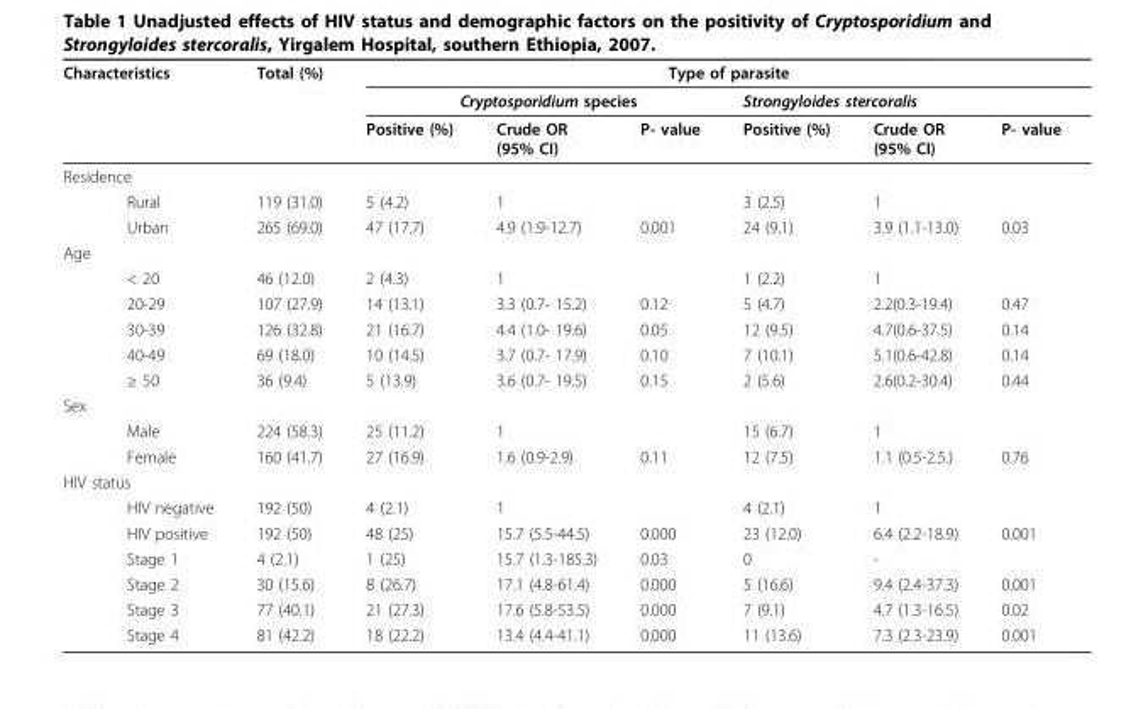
<table><thead><tr><td rowspan="3">Characteristics</td><td rowspan="3">Total (%)</td><td colspan="6">Type of parasite</td></tr><tr><td colspan="3">Cryptosporidium species</td><td colspan="3">Strongyloides stercoralis</td></tr><tr><td>Positive (%)</td><td>Crude OR (95% CI)</td><td>P- value</td><td>Positive (%)</td><td>Crude OR (95% CI)</td><td>P- value</td></tr></thead><tbody><tr><td colspan="8">Residence</td></tr><tr><td>Rural</td><td>119 (31.0)</td><td>5 (4.2)</td><td>1</td><td></td><td>3 (2.5)</td><td>1</td><td></td></tr><tr><td>Urban</td><td>265 (69.0)</td><td>47 (17.7)</td><td>4.9 (1.9-12.7)</td><td>0.001</td><td>24 (9.1)</td><td>3.9 (1.1-13.0)</td><td>0.03</td></tr><tr><td colspan="8">Age</td></tr><tr><td>&lt; 20</td><td>46 (12.0)</td><td>2 (4.3)</td><td>1</td><td></td><td>1 (2.2)</td><td>1</td><td></td></tr><tr><td>20-29</td><td>107 (27.9)</td><td>14 (13.1)</td><td>3.3 (0.7- 15.2)</td><td>0.12</td><td>5 (4.7)</td><td>2.2(0.3-19.4)</td><td>0.47</td></tr><tr><td>30-39</td><td>126 (32.8)</td><td>21 (16.7)</td><td>4.4 (1.0- 19.6)</td><td>0.05</td><td>12 (9.5)</td><td>4.7(0.6-37.5)</td><td>0.14</td></tr><tr><td>40-49</td><td>69 (18.0)</td><td>10 (14.5)</td><td>3.7 (0.7- 17.9)</td><td>0.10</td><td>7 (10.1)</td><td>5.1(0.6-42.8)</td><td>0.14</td></tr><tr><td>≥ 50</td><td>36 (9.4)</td><td>5 (13.9)</td><td>3.6 (0.7- 19.5)</td><td>0.15</td><td>2 (5.6)</td><td>2.6(0.2-30.4)</td><td>0.44</td></tr><tr><td colspan="8">Sex</td></tr><tr><td>Male</td><td>224 (58.3)</td><td>25 (11.2)</td><td>1</td><td></td><td>15 (6.7)</td><td>1</td><td></td></tr><tr><td>Female</td><td>160 (41.7)</td><td>27 (16.9)</td><td>1.6 (0.9-2.9)</td><td>0.11</td><td>12 (7.5)</td><td>1.1 (0.5-2.5.)</td><td>0.76</td></tr><tr><td colspan="8">HIV status</td></tr><tr><td>HIV negative</td><td>192 (50)</td><td>4 (2.1)</td><td>1</td><td></td><td>4 (2.1)</td><td>1</td><td></td></tr><tr><td>HIV positive</td><td>192 (50)</td><td>48 (25)</td><td>15.7 (5.5-44.5)</td><td>0.000</td><td>23 (12.0)</td><td>6.4 (2.2-18.9)</td><td>0.001</td></tr><tr><td>Stage 1</td><td>4 (2.1)</td><td>1 (25)</td><td>15.7 (1.3-185.3)</td><td>0.03</td><td>0</td><td>-</td><td></td></tr><tr><td>Stage 2</td><td>30 (15.6)</td><td>8 (26.7)</td><td>17.1 (4.8-61.4)</td><td>0.000</td><td>5 (16.6)</td><td>9.4 (2.4-37.3)</td><td>0.001</td></tr><tr><td>Stage 3</td><td>77 (40.1)</td><td>21 (27.3)</td><td>17.6 (5.8-53.5)</td><td>0.000</td><td>7 (9.1)</td><td>4.7 (1.3-16.5)</td><td>0.02</td></tr><tr><td>Stage 4</td><td>81 (42.2)</td><td>18 (22.2)</td><td>13.4 (4.4-41.1)</td><td>0.000</td><td>11 (13.6)</td><td>7.3 (2.3-23.9)</td><td>0.001</td></tr></tbody></table>